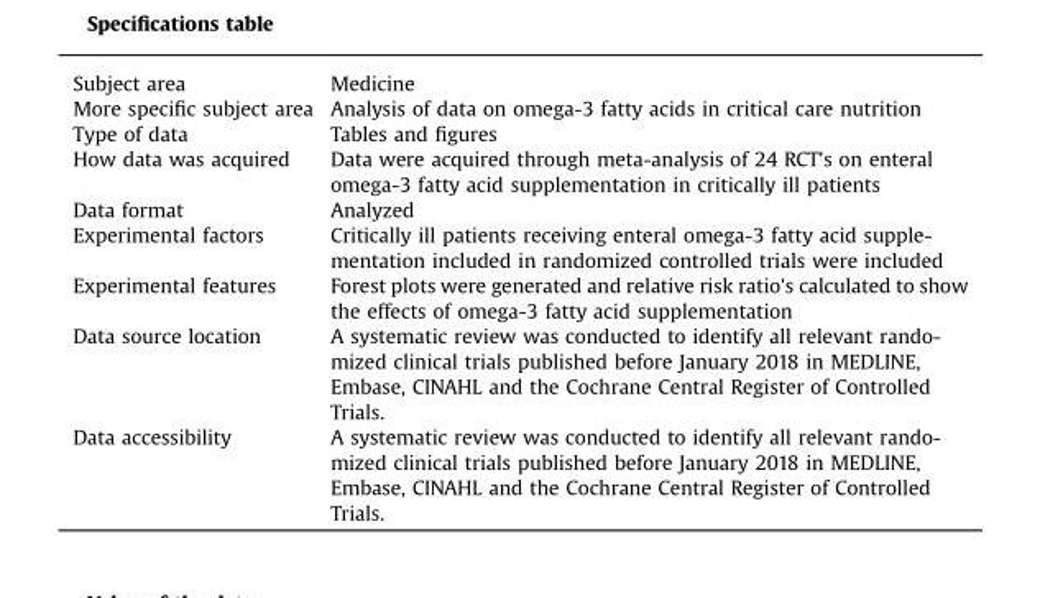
<table><tbody><tr><td>Subject area</td><td>Medicine</td></tr><tr><td>More specific subject area</td><td>Analysis of data on omega-3 fatty acids in critical care nutrition</td></tr><tr><td>Type of data</td><td>Tables and figures</td></tr><tr><td>How data was acquired</td><td>Data were acquired through meta-analysis of 24 RCT&#x27;s on enteral omega-3 fatty acid supplementation in critically ill patients</td></tr><tr><td>Data format</td><td>Analyzed</td></tr><tr><td>Experimental factors</td><td>Critically ill patients receiving enteral omega-3 fatty acid supple- mentation included in randomized controlled trials were included</td></tr><tr><td>Experimental features</td><td>Forest plots were generated and relative risk ratio&#x27;s calculated to show the effects of omega-3 fatty acid supplementation</td></tr><tr><td>Data source location</td><td>A systematic review was conducted to identify all relevant rando- mized clinical trials published before January 2018 in MEDLINE, Embase, CINAHL and the Cochrane Central Register of Controlled Trials.</td></tr><tr><td>Data accessibility</td><td>A systematic review was conducted to identify all relevant rando- mized clinical trials published before January 2018 in MEDLINE, Embase, CINAHL and the Cochrane Central Register of Controlled Trials.</td></tr></tbody></table>